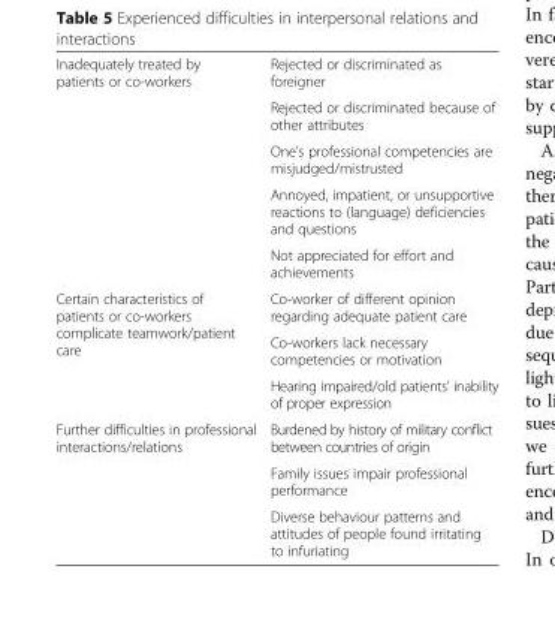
<table><tbody><tr><td rowspan="5">Inadequately treated by patients or co-workers</td><td>Rejected or discriminated as foreigner</td></tr><tr><td>Rejected or discriminated because of other attributes</td></tr><tr><td>One’s professional competencies are misjudged/mistrusted</td></tr><tr><td>Annoyed, impatient, or unsupportive reactions to (language) deficiencies and questions</td></tr><tr><td>Not appreciated for effort and achievements</td></tr><tr><td rowspan="3">Certain characteristics of patients or co-workers complicate teamwork/patient care</td><td>Co-worker of different opinion regarding adequate patient care</td></tr><tr><td>Co-workers lack necessary competencies or motivation</td></tr><tr><td>Hearing impaired/old patients’ inability of proper expression</td></tr><tr><td rowspan="3">Further difficulties in professional interactions/relations</td><td>Burdened by history of military conflict between countries of origin</td></tr><tr><td>Family issues impair professional performance</td></tr><tr><td>Diverse behaviour patterns and attitudes of people found irritating to infuriating</td></tr></tbody></table>